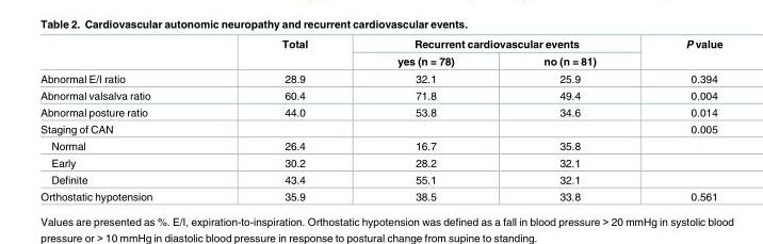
<table><thead><tr><td rowspan="2"></td><td rowspan="2">Total</td><td colspan="2">Recurrent cardiovascular events</td><td rowspan="2">P value</td></tr><tr><td>yes (n = 78)</td><td>no (n = 81)</td></tr></thead><tbody><tr><td>Abnormal E/I ratio</td><td>28.9</td><td>32.1</td><td>25.9</td><td>0.394</td></tr><tr><td>Abnormal valsalva ratio</td><td>60.4</td><td>71.8</td><td>49.4</td><td>0.004</td></tr><tr><td>Abnormal posture ratio</td><td>44.0</td><td>53.8</td><td>34.6</td><td>0.014</td></tr><tr><td>Staging of CAN</td><td></td><td></td><td></td><td>0.005</td></tr><tr><td>Normal</td><td>26.4</td><td>16.7</td><td>35.8</td><td></td></tr><tr><td>Early</td><td>30.2</td><td>28.2</td><td>32.1</td><td></td></tr><tr><td>Definite</td><td>43.4</td><td>55.1</td><td>32.1</td><td></td></tr><tr><td>Orthostatic hypotension</td><td>35.9</td><td>38.5</td><td>33.8</td><td>0.561</td></tr></tbody></table>